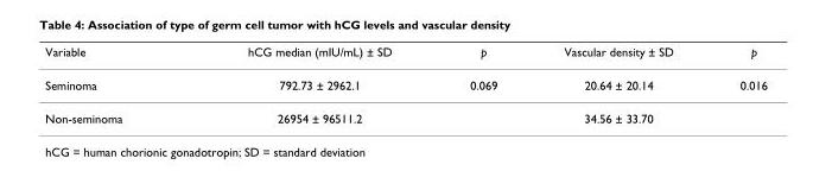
<table><thead><tr><td>Variable</td><td>hCG median (mIU/mL) ± SD</td><td>p</td><td>Vascular density ± SD</td><td>p</td></tr></thead><tbody><tr><td>Seminoma</td><td>792.73 ± 2962.1</td><td>0.069</td><td>20.64 ± 20.14</td><td>0.016</td></tr><tr><td>Non-seminoma</td><td>26954 ± 96511.2</td><td></td><td>34.56 ± 33.70</td><td></td></tr></tbody></table>